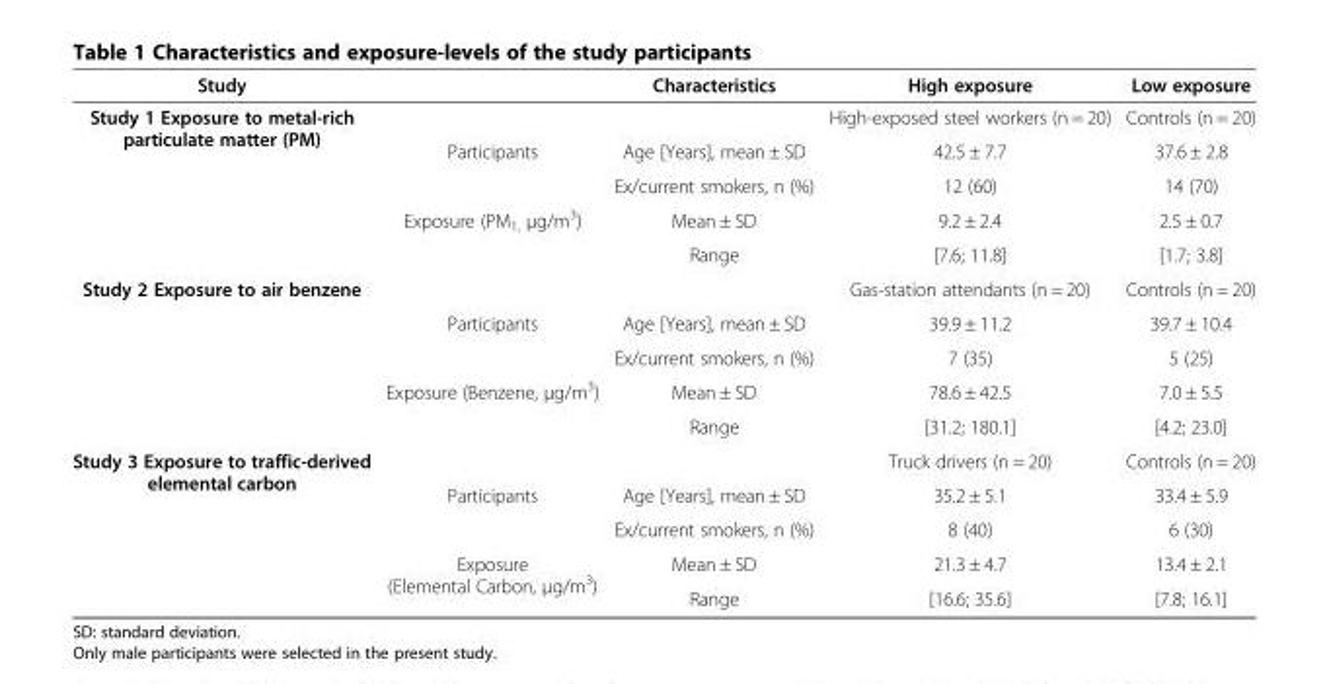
<table><thead><tr><td>Study</td><td></td><td>Characteristics</td><td>High exposure</td><td>Low exposure</td></tr></thead><tbody><tr><td rowspan="5">Study 1 Exposure to metal-rich particulate matter (PM)</td><td></td><td></td><td>High-exposed steel workers (n = 20)</td><td>Controls (n = 20)</td></tr><tr><td>Participants</td><td>Age [Years], mean ± SD</td><td>42.5 ± 7.7</td><td>37.6 ± 2.8</td></tr><tr><td></td><td>Ex/current smokers, n (%)</td><td>12 (60)</td><td>14 (70)</td></tr><tr><td rowspan="2">Exposure (PM<sub>1,</sub> μg/m<sup>3</sup>)</td><td>Mean ± SD</td><td>9.2 ± 2.4</td><td>2.5 ± 0.7</td></tr><tr><td>Range</td><td>[7.6; 11.8]</td><td>[1.7; 3.8]</td></tr><tr><td rowspan="5">Study 2 Exposure to air benzene</td><td></td><td></td><td>Gas-station attendants (n = 20)</td><td>Controls (n = 20)</td></tr><tr><td>Participants</td><td>Age [Years], mean ± SD</td><td>39.9 ± 11.2</td><td>39.7 ± 10.4</td></tr><tr><td></td><td>Ex/current smokers, n (%)</td><td>7 (35)</td><td>5 (25)</td></tr><tr><td rowspan="2">Exposure (Benzene, μg/m<sup>3</sup>)</td><td>Mean ± SD</td><td>78.6 ± 42.5</td><td>7.0 ± 5.5</td></tr><tr><td>Range</td><td>[31.2; 180.1]</td><td>[4.2; 23.0]</td></tr><tr><td rowspan="5">Study 3 Exposure to traffic-derived elemental carbon</td><td></td><td></td><td>Truck drivers (n = 20)</td><td>Controls (n = 20)</td></tr><tr><td>Participants</td><td>Age [Years], mean ± SD</td><td>35.2 ± 5.1</td><td>33.4 ± 5.9</td></tr><tr><td></td><td>Ex/current smokers, n (%)</td><td>8 (40)</td><td>6 (30)</td></tr><tr><td rowspan="2">Exposure (Elemental Carbon, μg/m<sup>3</sup>)</td><td>Mean ± SD</td><td>21.3 ± 4.7</td><td>13.4 ± 2.1</td></tr><tr><td>Range</td><td>[16.6; 35.6]</td><td>[7.8; 16.1]</td></tr></tbody></table>